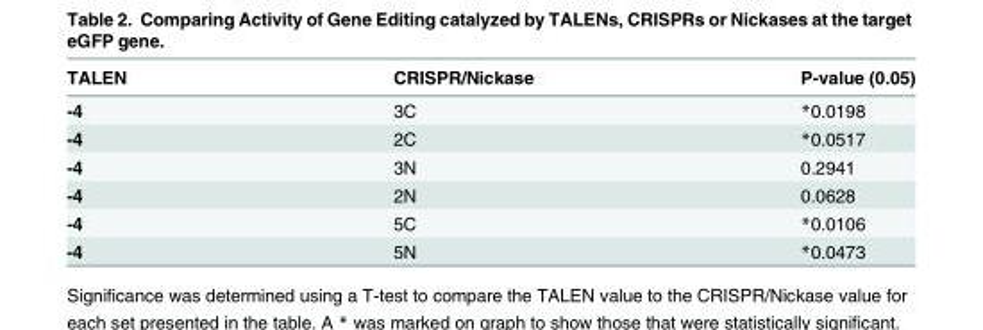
<table><thead><tr><td>TALEN</td><td>CRISPR/Nickase</td><td>P-value (0.05)</td></tr></thead><tbody><tr><td>-4</td><td>3C</td><td>*0.0198</td></tr><tr><td>-4</td><td>2C</td><td>*0.0517</td></tr><tr><td>-4</td><td>3N</td><td>0.2941</td></tr><tr><td>-4</td><td>2N</td><td>0.0628</td></tr><tr><td>-4</td><td>5C</td><td>*0.0106</td></tr><tr><td>-4</td><td>5N</td><td>*0.0473</td></tr></tbody></table>